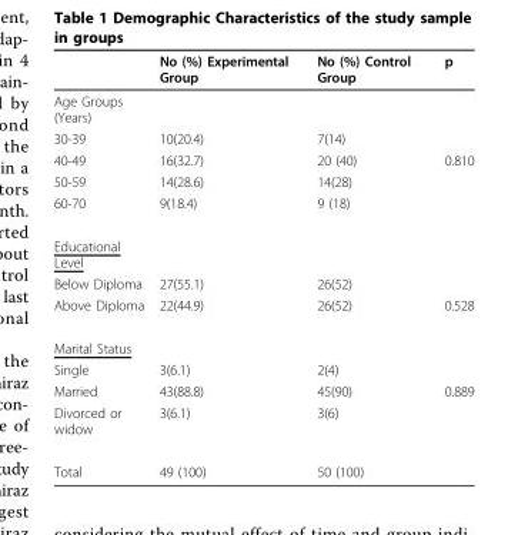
<table><thead><tr><td></td><td>No (%) Experimental Group</td><td>No (%) Control Group</td><td>p</td></tr></thead><tbody><tr><td colspan="4">Age Groups (Years)</td></tr><tr><td>30-39</td><td>10(20.4)</td><td>7(14)</td><td></td></tr><tr><td>40-49</td><td>16(32.7)</td><td>20 (40)</td><td>0.810</td></tr><tr><td>50-59</td><td>14(28.6)</td><td>14(28)</td><td></td></tr><tr><td>60-70</td><td>9(18.4)</td><td>9 (18)</td><td></td></tr><tr><td colspan="4">Educational Level</td></tr><tr><td>Below Diploma</td><td>27(55.1)</td><td>26(52)</td><td></td></tr><tr><td>Above Diploma</td><td>22(44.9)</td><td>26(52)</td><td>0.528</td></tr><tr><td colspan="4">Marital Status</td></tr><tr><td>Single</td><td>3(6.1)</td><td>2(4)</td><td></td></tr><tr><td>Married</td><td>43(88.8)</td><td>45(90)</td><td>0.889</td></tr><tr><td>Divorced or widow</td><td>3(6.1)</td><td>3(6)</td><td></td></tr><tr><td>Total</td><td>49 (100)</td><td>50 (100)</td><td></td></tr></tbody></table>